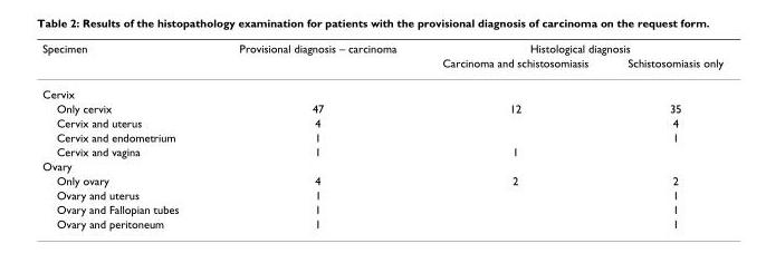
<table><thead><tr><td rowspan="2">Specimen</td><td rowspan="2">Provisional diagnosis – carcinoma</td><td colspan="2">Histological diagnosis</td></tr><tr><td>Carcinoma and schistosomiasis</td><td>Schistosomiasis only</td></tr></thead><tbody><tr><td colspan="4">Cervix</td></tr><tr><td>Only cervix</td><td>47</td><td>12</td><td>35</td></tr><tr><td>Cervix and uterus</td><td>4</td><td></td><td>4</td></tr><tr><td>Cervix and endometrium</td><td>1</td><td></td><td>1</td></tr><tr><td>Cervix and vagina</td><td>1</td><td>1</td><td></td></tr><tr><td colspan="4">Ovary</td></tr><tr><td>Only ovary</td><td>4</td><td>2</td><td>2</td></tr><tr><td>Ovary and uterus</td><td>1</td><td></td><td>1</td></tr><tr><td>Ovary and Fallopian tubes</td><td>1</td><td></td><td>1</td></tr><tr><td>Ovary and peritoneum</td><td>1</td><td></td><td>1</td></tr></tbody></table>